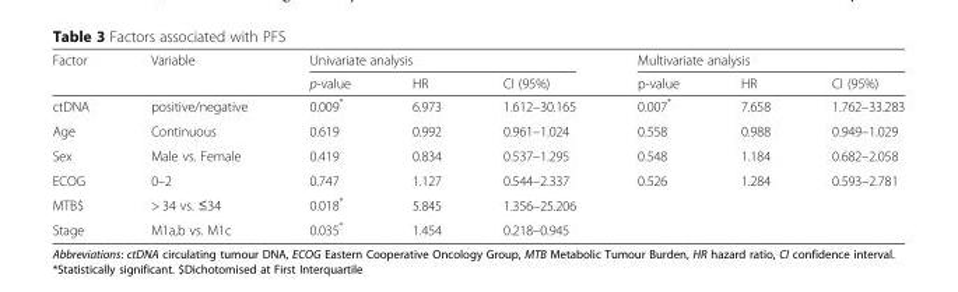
<table><thead><tr><td rowspan="2">Factor</td><td rowspan="2">Variable</td><td colspan="3">Univariate analysis</td><td colspan="3">Multivariate analysis</td></tr><tr><td>p-value</td><td>HR</td><td>CI (95%)</td><td>p-value</td><td>HR</td><td>CI (95%)</td></tr></thead><tbody><tr><td>ctDNA</td><td>positive/negative</td><td>0.009*</td><td>6.973</td><td>1.612–30.165</td><td>0.007*</td><td>7.658</td><td>1.762–33.283</td></tr><tr><td>Age</td><td>Continuous</td><td>0.619</td><td>0.992</td><td>0.961–1.024</td><td>0.558</td><td>0.988</td><td>0.949–1.029</td></tr><tr><td>Sex</td><td>Male vs. Female</td><td>0.419</td><td>0.834</td><td>0.537–1.295</td><td>0.548</td><td>1.184</td><td>0.682–2.058</td></tr><tr><td>ECOG</td><td>0–2</td><td>0.747</td><td>1.127</td><td>0.544–2.337</td><td>0.526</td><td>1.284</td><td>0.593–2.781</td></tr><tr><td>MTB$</td><td>&gt; 34 vs. ≤34</td><td>0.018*</td><td>5.845</td><td>1.356–25.206</td><td></td><td></td><td></td></tr><tr><td>Stage</td><td>M1a,b vs. M1c</td><td>0.035*</td><td>1.454</td><td>0.218–0.945</td><td></td><td></td><td></td></tr></tbody></table>